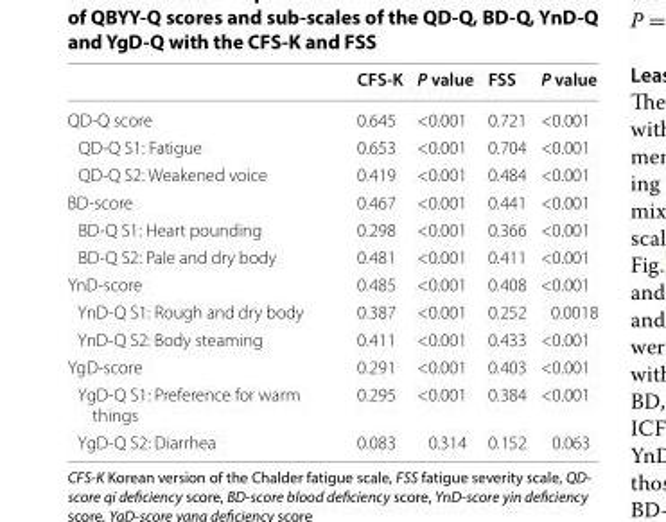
<table><thead><tr><td></td><td>CFS‑K</td><td>P value</td><td>FSS</td><td>P value</td></tr></thead><tbody><tr><td>QD-Q score</td><td>0.645</td><td>&lt;0.001</td><td>0.721</td><td>&lt;0.001</td></tr><tr><td>QD-Q S1: Fatigue</td><td>0.653</td><td>&lt;0.001</td><td>0.704</td><td>&lt;0.001</td></tr><tr><td>QD-Q S2: Weakened voice</td><td>0.419</td><td>&lt;0.001</td><td>0.484</td><td>&lt;0.001</td></tr><tr><td>BD-score</td><td>0.467</td><td>&lt;0.001</td><td>0.441</td><td>&lt;0.001</td></tr><tr><td>BD-Q S1: Heart pounding</td><td>0.298</td><td>&lt;0.001</td><td>0.366</td><td>&lt;0.001</td></tr><tr><td>BD-Q S2: Pale and dry body</td><td>0.481</td><td>&lt;0.001</td><td>0.411</td><td>&lt;0.001</td></tr><tr><td>YnD-score</td><td>0.485</td><td>&lt;0.001</td><td>0.408</td><td>&lt;0.001</td></tr><tr><td>YnD-Q S1: Rough and dry body</td><td>0.387</td><td>&lt;0.001</td><td>0.252</td><td>0.0018</td></tr><tr><td>YnD-Q S2: Body steaming</td><td>0.411</td><td>&lt;0.001</td><td>0.433</td><td>&lt;0.001</td></tr><tr><td>YgD-score</td><td>0.291</td><td>&lt;0.001</td><td>0.403</td><td>&lt;0.001</td></tr><tr><td>YgD-Q S1: Preference for warm things</td><td>0.295</td><td>&lt;0.001</td><td>0.384</td><td>&lt;0.001</td></tr><tr><td>YgD-Q S2: Diarrhea</td><td>0.083</td><td>0.314</td><td>0.152</td><td>0.063</td></tr></tbody></table>